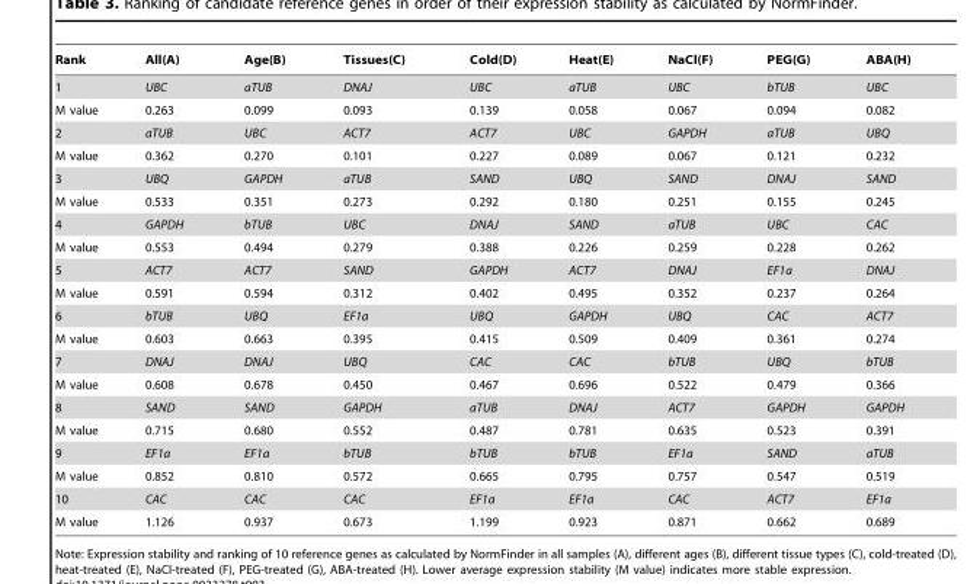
<table><thead><tr><td>Rank</td><td>All(A)</td><td>Age(B)</td><td>Tissues(C)</td><td>Cold(D)</td><td>Heat(E)</td><td>NaCl(F)</td><td>PEG(G)</td><td>ABA(H)</td></tr></thead><tbody><tr><td>1</td><td>UBC</td><td>aTUB</td><td>DNAJ</td><td>UBC</td><td>aTUB</td><td>UBC</td><td>bTUB</td><td>UBC</td></tr><tr><td>M value</td><td>0.263</td><td>0.099</td><td>0.093</td><td>0.139</td><td>0.058</td><td>0.067</td><td>0.094</td><td>0.082</td></tr><tr><td>2</td><td>aTUB</td><td>UBC</td><td>ACT7</td><td>ACT7</td><td>UBC</td><td>GAPDH</td><td>aTUB</td><td>UBQ</td></tr><tr><td>M value</td><td>0.362</td><td>0.270</td><td>0.101</td><td>0.227</td><td>0.089</td><td>0.067</td><td>0.121</td><td>0.232</td></tr><tr><td>3</td><td>UBQ</td><td>GAPDH</td><td>aTUB</td><td>SAND</td><td>UBQ</td><td>SAND</td><td>DNAJ</td><td>SAND</td></tr><tr><td>M value</td><td>0.533</td><td>0.351</td><td>0.273</td><td>0.292</td><td>0.180</td><td>0.251</td><td>0.155</td><td>0.245</td></tr><tr><td>4</td><td>GAPDH</td><td>bTUB</td><td>UBC</td><td>DNAJ</td><td>SAND</td><td>aTUB</td><td>UBC</td><td>CAC</td></tr><tr><td>M value</td><td>0.553</td><td>0.494</td><td>0.279</td><td>0.388</td><td>0.226</td><td>0.259</td><td>0.228</td><td>0.262</td></tr><tr><td>5</td><td>ACT7</td><td>ACT7</td><td>SAND</td><td>GAPDH</td><td>ACT7</td><td>DNAJ</td><td>EF1a</td><td>DNAJ</td></tr><tr><td>M value</td><td>0.591</td><td>0.594</td><td>0.312</td><td>0.402</td><td>0.495</td><td>0.352</td><td>0.237</td><td>0.264</td></tr><tr><td>6</td><td>bTUB</td><td>UBQ</td><td>EF1a</td><td>UBQ</td><td>GAPDH</td><td>UBQ</td><td>CAC</td><td>ACT7</td></tr><tr><td>M value</td><td>0.603</td><td>0.663</td><td>0.395</td><td>0.415</td><td>0.509</td><td>0.409</td><td>0.361</td><td>0.274</td></tr><tr><td>7</td><td>DNAJ</td><td>DNAJ</td><td>UBQ</td><td>CAC</td><td>CAC</td><td>bTUB</td><td>UBQ</td><td>bTUB</td></tr><tr><td>M value</td><td>0.608</td><td>0.678</td><td>0.450</td><td>0.467</td><td>0.696</td><td>0.522</td><td>0.479</td><td>0.366</td></tr><tr><td>8</td><td>SAND</td><td>SAND</td><td>GAPDH</td><td>aTUB</td><td>DNAJ</td><td>ACT7</td><td>GAPDH</td><td>GAPDH</td></tr><tr><td>M value</td><td>0.715</td><td>0.680</td><td>0.552</td><td>0.487</td><td>0.781</td><td>0.635</td><td>0.523</td><td>0.391</td></tr><tr><td>9</td><td>EF1a</td><td>EF1a</td><td>bTUB</td><td>bTUB</td><td>bTUB</td><td>EF1a</td><td>SAND</td><td>aTUB</td></tr><tr><td>M value</td><td>0.852</td><td>0.810</td><td>0.572</td><td>0.665</td><td>0.795</td><td>0.757</td><td>0.547</td><td>0.519</td></tr><tr><td>10</td><td>CAC</td><td>CAC</td><td>CAC</td><td>EF1a</td><td>EF1a</td><td>CAC</td><td>ACT7</td><td>EF1a</td></tr><tr><td>M value</td><td>1.126</td><td>0.937</td><td>0.673</td><td>1.199</td><td>0.923</td><td>0.871</td><td>0.662</td><td>0.689</td></tr></tbody></table>